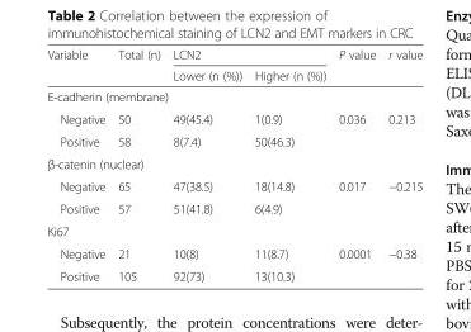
<table><thead><tr><td rowspan="2">Variable</td><td rowspan="2">Total (n)</td><td colspan="2">LCN2</td><td rowspan="2">P value</td><td rowspan="2">r value</td></tr><tr><td>Lower (n (%))</td><td>Higher (n (%))</td></tr></thead><tbody><tr><td colspan="6">E-cadherin (membrane)</td></tr><tr><td>Negative</td><td>50</td><td>49(45.4)</td><td>1(0.9)</td><td rowspan="2">0.036</td><td rowspan="2">0.213</td></tr><tr><td>Positive</td><td>58</td><td>8(7.4)</td><td>50(46.3)</td></tr><tr><td colspan="6">β-catenin (nuclear)</td></tr><tr><td>Negative</td><td>65</td><td>47(38.5)</td><td>18(14.8)</td><td rowspan="2">0.017</td><td rowspan="2">−0.215</td></tr><tr><td>Positive</td><td>57</td><td>51(41.8)</td><td>6(4.9)</td></tr><tr><td colspan="6">Ki67</td></tr><tr><td>Negative</td><td>21</td><td>10(8)</td><td>11(8.7)</td><td rowspan="2">0.0001</td><td rowspan="2">−0.38</td></tr><tr><td>Positive</td><td>105</td><td>92(73)</td><td>13(10.3)</td></tr></tbody></table>